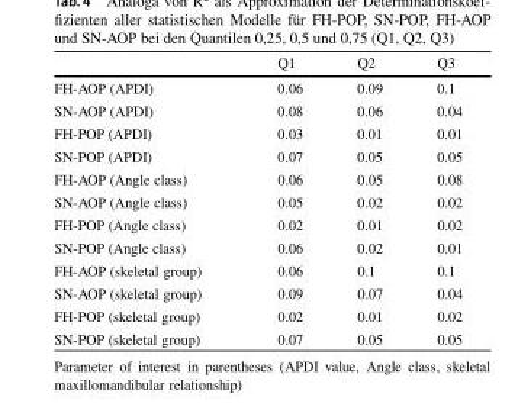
<table><thead><tr><td></td><td>Q1</td><td>Q2</td><td>Q3</td></tr></thead><tbody><tr><td>FH-AOP (APDI)</td><td>0.06</td><td>0.09</td><td>0.1</td></tr><tr><td>SN-AOP (APDI)</td><td>0.08</td><td>0.06</td><td>0.04</td></tr><tr><td>FH-POP (APDI)</td><td>0.03</td><td>0.01</td><td>0.01</td></tr><tr><td>SN-POP (APDI)</td><td>0.07</td><td>0.05</td><td>0.05</td></tr><tr><td>FH-AOP (Angle class)</td><td>0.06</td><td>0.05</td><td>0.08</td></tr><tr><td>SN-AOP (Angle class)</td><td>0.05</td><td>0.02</td><td>0.02</td></tr><tr><td>FH-POP (Angle class)</td><td>0.02</td><td>0.01</td><td>0.02</td></tr><tr><td>SN-POP (Angle class)</td><td>0.06</td><td>0.02</td><td>0.01</td></tr><tr><td>FH-AOP (skeletal group)</td><td>0.06</td><td>0.1</td><td>0.1</td></tr><tr><td>SN-AOP (skeletal group)</td><td>0.09</td><td>0.07</td><td>0.04</td></tr><tr><td>FH-POP (skeletal group)</td><td>0.02</td><td>0.01</td><td>0.02</td></tr><tr><td>SN-POP (skeletal group)</td><td>0.07</td><td>0.05</td><td>0.05</td></tr></tbody></table>